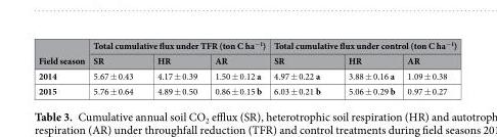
<table><thead><tr><td rowspan="2">Field season</td><td colspan="3">Total cumulative flux under TFR (ton C ha<sup>−1</sup>)</td><td colspan="3">Total cumulative flux under control (ton C ha<sup>−1</sup>)</td></tr><tr><td>SR</td><td>HR</td><td>AR</td><td>SR</td><td>HR</td><td>AR</td></tr></thead><tbody><tr><td>2014</td><td>5.67 ± 0.43</td><td>4.17 ± 0.39</td><td>1.50 ± 0.12 a</td><td>4.97 ± 0.22 a</td><td>3.88 ± 0.16 a</td><td>1.09 ± 0.38</td></tr><tr><td>2015</td><td>5.76 ± 0.64</td><td>4.89 ± 0.50</td><td>0.86 ± 0.15 b</td><td>6.03 ± 0.21 b</td><td>5.06 ± 0.29 b</td><td>0.97 ± 0.27</td></tr></tbody></table>